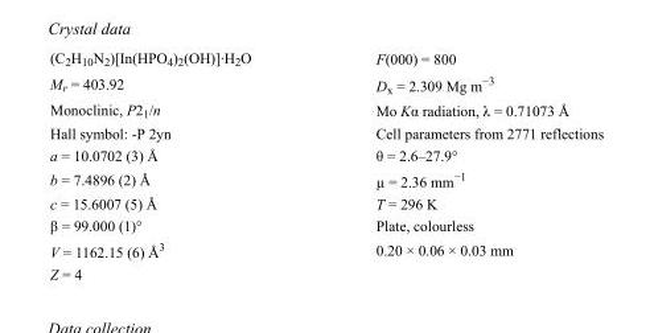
<table><tbody><tr><td>(C<sub>2</sub>H<sub>10</sub>N<sub>2</sub>)[In(HPO<sub>4</sub>)<sub>2</sub>(OH)]·H<sub>2</sub>O</td><td>F(000) = 800</td></tr><tr><td>M<sub>r</sub> = 403.92</td><td>D<sub>x</sub> = 2.309 Mg m<sup>−3</sup></td></tr><tr><td>Monoclinic, P2<sub>1</sub>/n</td><td>Mo Kα radiation, λ = 0.71073 Å</td></tr><tr><td>Hall symbol: -P 2yn</td><td>Cell parameters from 2771 reflections</td></tr><tr><td>a = 10.0702 (3) Å</td><td>θ = 2.6–27.9°</td></tr><tr><td>b = 7.4896 (2) Å</td><td>µ = 2.36 mm<sup>−1</sup></td></tr><tr><td>c = 15.6007 (5) Å</td><td>T = 296 K</td></tr><tr><td>β = 99.000 (1)°</td><td>Plate, colourless</td></tr><tr><td>V = 1162.15 (6) Å<sup>3</sup></td><td>0.20 × 0.06 × 0.03 mm</td></tr><tr><td>Z = 4</td><td></td></tr></tbody></table>